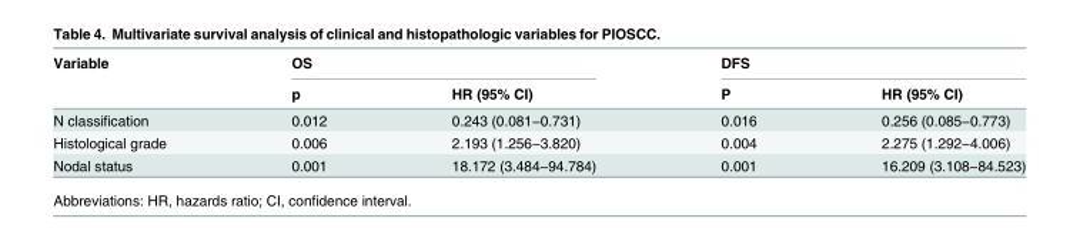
<table><thead><tr><td rowspan="2">Variable</td><td colspan="2">OS</td><td colspan="2">DFS</td></tr><tr><td>p</td><td>HR (95% CI)</td><td>P</td><td>HR (95% CI)</td></tr></thead><tbody><tr><td>N classification</td><td>0.012</td><td>0.243 (0.081−0.731)</td><td>0.016</td><td>0.256 (0.085−0.773)</td></tr><tr><td>Histological grade</td><td>0.006</td><td>2.193 (1.256−3.820)</td><td>0.004</td><td>2.275 (1.292−4.006)</td></tr><tr><td>Nodal status</td><td>0.001</td><td>18.172 (3.484−94.784)</td><td>0.001</td><td>16.209 (3.108−84.523)</td></tr></tbody></table>